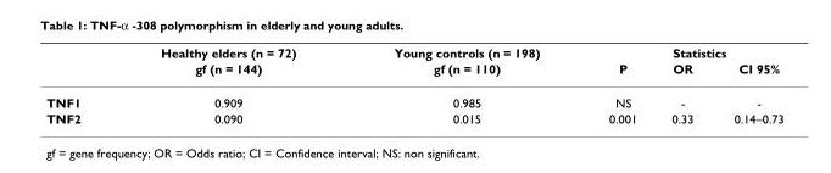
<table><thead><tr><td rowspan="2"></td><td rowspan="2">Healthy elders (n = 72) gf (n = 144)</td><td rowspan="2">Young controls (n = 198) gf (n = 110)</td><td colspan="3">Statistics</td></tr><tr><td>P</td><td>OR</td><td>CI 95%</td></tr></thead><tbody><tr><td>TNF1</td><td>0.909</td><td>0.985</td><td>NS</td><td>-</td><td>-</td></tr><tr><td>TNF2</td><td>0.090</td><td>0.015</td><td>0.001</td><td>0.33</td><td>0.14–0.73</td></tr></tbody></table>